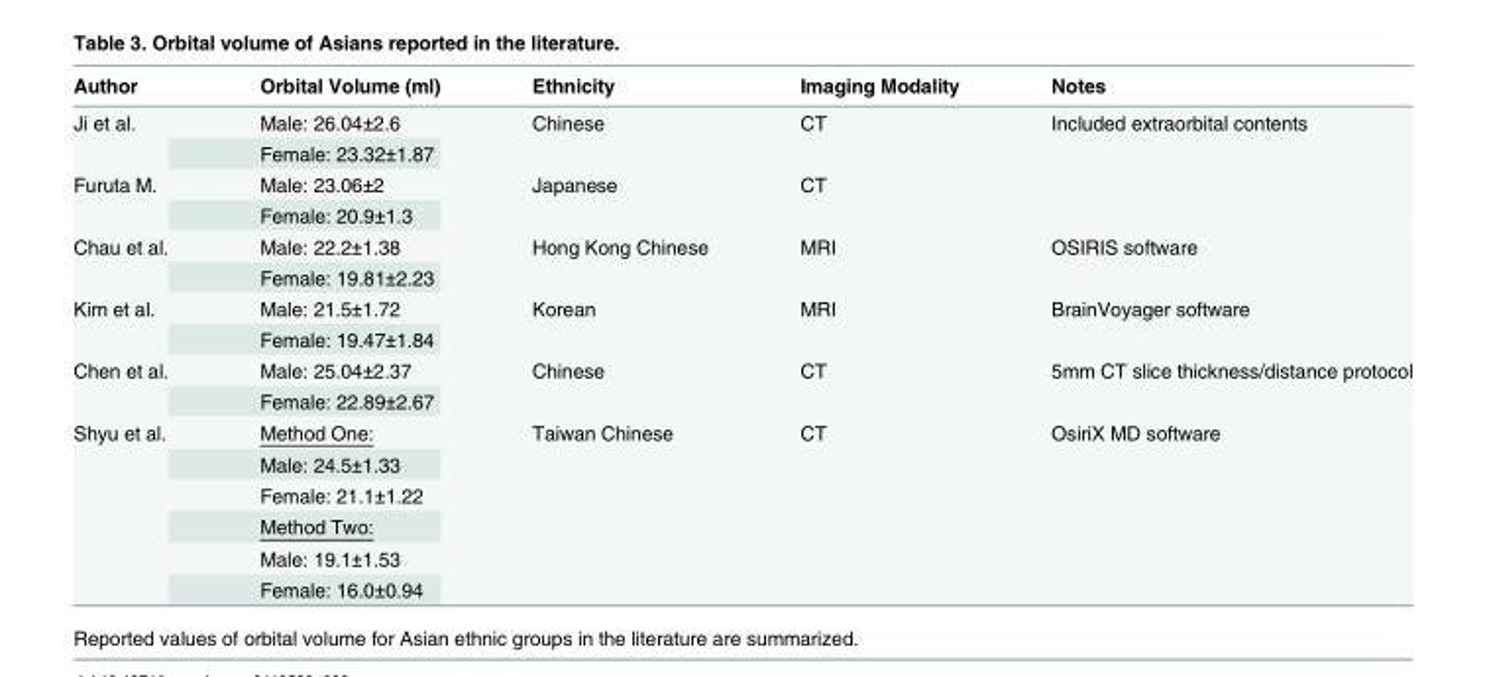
<table><thead><tr><td>Author</td><td>Orbital Volume (ml)</td><td>Ethnicity</td><td>Imaging Modality</td><td>Notes</td></tr></thead><tbody><tr><td rowspan="2">Ji et al.</td><td>Male: 26.04±2.6</td><td rowspan="2">Chinese</td><td rowspan="2">CT</td><td rowspan="4">Included extraorbital contents</td></tr><tr><td>Female: 23.32±1.87</td></tr><tr><td rowspan="2">Furuta M.</td><td>Male: 23.06±2</td><td rowspan="2">Japanese</td><td rowspan="2">CT</td></tr><tr><td>Female: 20.9±1.3</td></tr><tr><td rowspan="2">Chau et al.</td><td>Male: 22.2±1.38</td><td rowspan="2">Hong Kong Chinese</td><td rowspan="2">MRI</td><td rowspan="2">OSIRIS software</td></tr><tr><td>Female: 19.81±2.23</td></tr><tr><td rowspan="2">Kim et al.</td><td>Male: 21.5±1.72</td><td rowspan="2">Korean</td><td rowspan="2">MRI</td><td rowspan="2">BrainVoyager software</td></tr><tr><td>Female: 19.47±1.84</td></tr><tr><td rowspan="2">Chen et al.</td><td>Male: 25.04±2.37</td><td rowspan="2">Chinese</td><td rowspan="2">CT</td><td rowspan="2">5mm CT slice thickness/distance protocol</td></tr><tr><td>Female: 22.89±2.67</td></tr><tr><td rowspan="6">Shyu et al.</td><td>Method One:</td><td rowspan="6">Taiwan Chinese</td><td rowspan="6">CT</td><td rowspan="6">OsiriX MD software</td></tr><tr><td>Male: 24.5±1.33</td></tr><tr><td>Female: 21.1±1.22</td></tr><tr><td>Method Two:</td></tr><tr><td>Male: 19.1±1.53</td></tr><tr><td>Female: 16.0±0.94</td></tr></tbody></table>